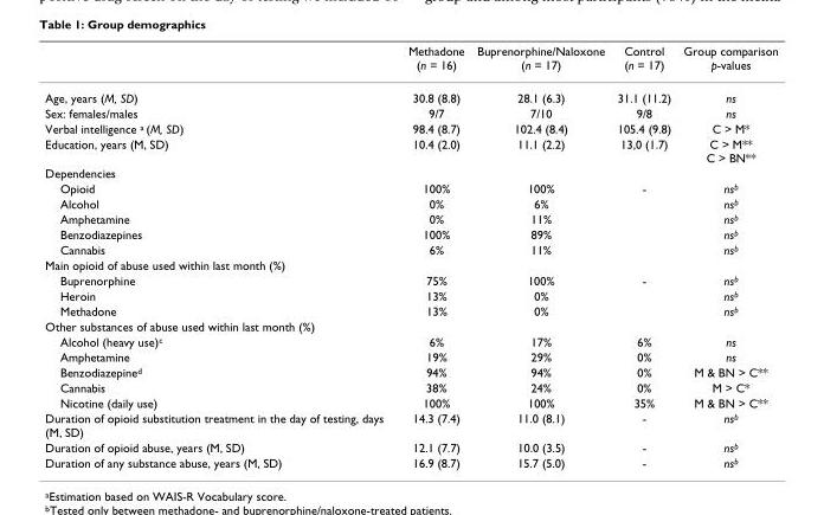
<table><thead><tr><td></td><td>Methadone (n = 16)</td><td>Buprenorphine/Naloxone (n = 17)</td><td>Control (n = 17)</td><td>Group comparison p-values</td></tr></thead><tbody><tr><td>Age, years (M, SD)</td><td>30.8 (8.8)</td><td>28.1 (6.3)</td><td>31.1 (11.2)</td><td>ns</td></tr><tr><td>Sex: females/males</td><td>9/7</td><td>7/10</td><td>9/8</td><td>ns</td></tr><tr><td>Verbal intelligence <sup>a</sup> (M, SD)</td><td>98.4 (8.7)</td><td>102.4 (8.4)</td><td>105.4 (9.8)</td><td>C &gt; M*</td></tr><tr><td>Education, years (M, SD)</td><td>10.4 (2.0)</td><td>11.1 (2.2)</td><td>13,0 (1.7)</td><td>C &gt; M** C &gt; BN**</td></tr><tr><td colspan="5">Dependencies</td></tr><tr><td>Opioid</td><td>100%</td><td>100%</td><td>-</td><td>ns<sup>b</sup></td></tr><tr><td>Alcohol</td><td>0%</td><td>6%</td><td></td><td>ns<sup>b</sup></td></tr><tr><td>Amphetamine</td><td>0%</td><td>11%</td><td></td><td>ns<sup>b</sup></td></tr><tr><td>Benzodiazepines</td><td>100%</td><td>89%</td><td></td><td>ns<sup>b</sup></td></tr><tr><td>Cannabis</td><td>6%</td><td>11%</td><td></td><td>ns<sup>b</sup></td></tr><tr><td colspan="5">Main opioid of abuse used within last month (%)</td></tr><tr><td>Buprenorphine</td><td>75%</td><td>100%</td><td>-</td><td>ns<sup>b</sup></td></tr><tr><td>Heroin</td><td>13%</td><td>0%</td><td></td><td>ns<sup>b</sup></td></tr><tr><td>Methadone</td><td>13%</td><td>0%</td><td></td><td>ns<sup>b</sup></td></tr><tr><td colspan="5">Other substances of abuse used within last month (%)</td></tr><tr><td>Alcohol (heavy use)<sup>c</sup></td><td>6%</td><td>17%</td><td>6%</td><td>ns</td></tr><tr><td>Amphetamine</td><td>19%</td><td>29%</td><td>0%</td><td>ns</td></tr><tr><td>Benzodiazepine<sup>d</sup></td><td>94%</td><td>94%</td><td>0%</td><td>M &amp; BN &gt; C**</td></tr><tr><td>Cannabis</td><td>38%</td><td>24%</td><td>0%</td><td>M &gt; C*</td></tr><tr><td>Nicotine (daily use)</td><td>100%</td><td>100%</td><td>35%</td><td>M &amp; BN &gt; C**</td></tr><tr><td>Duration of opioid substitution treatment in the day of testing, days (M, SD)</td><td>14.3 (7.4)</td><td>11.0 (8.1)</td><td>-</td><td>ns<sup>b</sup></td></tr><tr><td>Duration of opioid abuse, years (M, SD)</td><td>12.1 (7.7)</td><td>10.0 (3.5)</td><td>-</td><td>ns<sup>b</sup></td></tr><tr><td>Duration of any substance abuse, years (M, SD)</td><td>16.9 (8.7)</td><td>15.7 (5.0)</td><td>-</td><td>ns<sup>b</sup></td></tr></tbody></table>